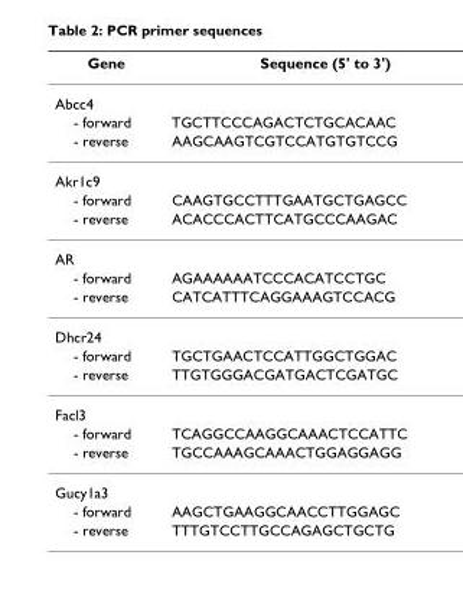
<table><thead><tr><td>Gene</td><td>Sequence (5&#x27; to 3&#x27;)</td></tr></thead><tbody><tr><td colspan="2">Abcc4</td></tr><tr><td>- forward</td><td>TGCTTCCCAGACTCTGCACAAC</td></tr><tr><td>- reverse</td><td>AAGCAAGTCGTCCATGTGTCCG</td></tr><tr><td colspan="2">Akr1c9</td></tr><tr><td>- forward</td><td>CAAGTGCCTTTGAATGCTGAGCC</td></tr><tr><td>- reverse</td><td>ACACCCACTTCATGCCCAAGAC</td></tr><tr><td colspan="2">AR</td></tr><tr><td>- forward</td><td>AGAAAAAATCCCACATCCTGC</td></tr><tr><td>- reverse</td><td>CATCATTTCAGGAAAGTCCACG</td></tr><tr><td colspan="2">Dhcr24</td></tr><tr><td>- forward</td><td>TGCTGAACTCCATTGGCTGGAC</td></tr><tr><td>- reverse</td><td>TTGTGGGACGATGACTCGATGC</td></tr><tr><td colspan="2">Facl3</td></tr><tr><td>- forward</td><td>TCAGGCCAAGGCAAACTCCATTC</td></tr><tr><td>- reverse</td><td>TGCCAAAGCAAACTGGAGGAGG</td></tr><tr><td colspan="2">Gucy1a3</td></tr><tr><td>- forward</td><td>AAGCTGAAGGCAACCTTGGAGC</td></tr><tr><td>- reverse</td><td>TTTGTCCTTGCCAGAGCTGCTG</td></tr></tbody></table>